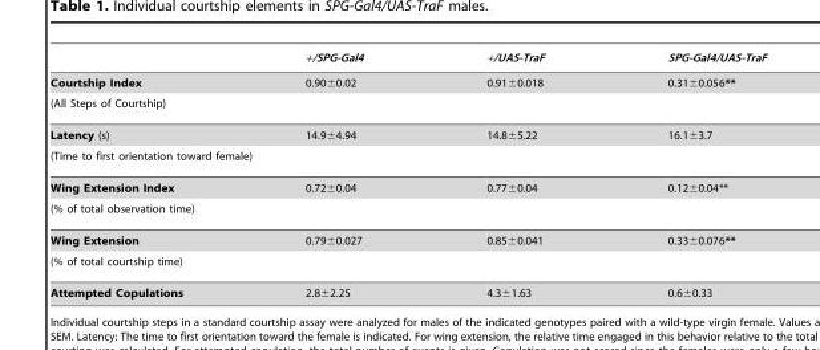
<table><thead><tr><td></td><td>+/SPG-Gal4</td><td>+/UAS-TraF</td><td>SPG-Gal4/UAS-TraF</td></tr></thead><tbody><tr><td>Courtship Index</td><td>0.90±0.02</td><td>0.91±0.018</td><td>0.31±0.056**</td></tr><tr><td colspan="4">(All Steps of Courtship)</td></tr><tr><td>Latency (s)</td><td>14.9±4.94</td><td>14.8±5.22</td><td>16.1±3.7</td></tr><tr><td colspan="4">(Time to first orientation toward female)</td></tr><tr><td>Wing Extension Index</td><td>0.72±0.04</td><td>0.77±0.04</td><td>0.12±0.04**</td></tr><tr><td colspan="4">(% of total observation time)</td></tr><tr><td>Wing Extension</td><td>0.79±0.027</td><td>0.85±0.041</td><td>0.33±0.076**</td></tr><tr><td colspan="4">(% of total courtship time)</td></tr><tr><td>Attempted Copulations</td><td>2.8±2.25</td><td>4.3±1.63</td><td>0.6±0.33</td></tr></tbody></table>